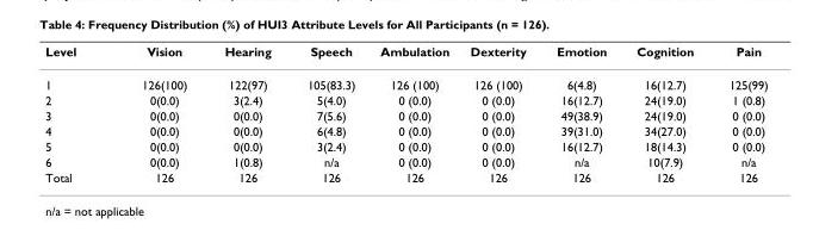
<table><thead><tr><td>Level</td><td>Vision</td><td>Hearing</td><td>Speech</td><td>Ambulation</td><td>Dexterity</td><td>Emotion</td><td>Cognition</td><td>Pain</td></tr></thead><tbody><tr><td>1</td><td>126(100)</td><td>122(97)</td><td>105(83.3)</td><td>126 (100)</td><td>126 (100)</td><td>6(4.8)</td><td>16(12.7)</td><td>125(99)</td></tr><tr><td>2</td><td>0(0.0)</td><td>3(2.4)</td><td>5(4.0)</td><td>0 (0.0)</td><td>0 (0.0)</td><td>16(12.7)</td><td>24(19.0)</td><td>1 (0.8)</td></tr><tr><td>3</td><td>0(0.0)</td><td>0(0.0)</td><td>7(5.6)</td><td>0 (0.0)</td><td>0 (0.0)</td><td>49(38.9)</td><td>24(19.0)</td><td>0 (0.0)</td></tr><tr><td>4</td><td>0(0.0)</td><td>0(0.0)</td><td>6(4.8)</td><td>0 (0.0)</td><td>0 (0.0)</td><td>39(31.0)</td><td>34(27.0)</td><td>0 (0.0)</td></tr><tr><td>5</td><td>0(0.0)</td><td>0(0.0)</td><td>3(2.4)</td><td>0 (0.0)</td><td>0 (0.0)</td><td>16(12.7)</td><td>18(14.3)</td><td>0 (0.0)</td></tr><tr><td>6</td><td>0(0.0)</td><td>1(0.8)</td><td>n/a</td><td>0 (0.0)</td><td>0 (0.0)</td><td>n/a</td><td>10(7.9)</td><td>n/a</td></tr><tr><td>Total</td><td>126</td><td>126</td><td>126</td><td>126</td><td>126</td><td>126</td><td>126</td><td>126</td></tr></tbody></table>